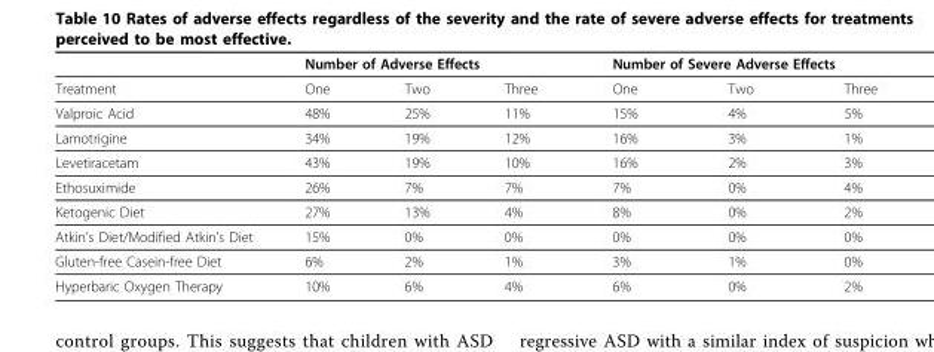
<table><thead><tr><td rowspan="2">Treatment</td><td colspan="3">Number of Adverse Effects</td><td colspan="3">Number of Severe Adverse Effects</td></tr><tr><td>One</td><td>Two</td><td>Three</td><td>One</td><td>Two</td><td>Three</td></tr></thead><tbody><tr><td>Valproic Acid</td><td>48%</td><td>25%</td><td>11%</td><td>15%</td><td>4%</td><td>5%</td></tr><tr><td>Lamotrigine</td><td>34%</td><td>19%</td><td>12%</td><td>16%</td><td>3%</td><td>1%</td></tr><tr><td>Levetiracetam</td><td>43%</td><td>19%</td><td>10%</td><td>16%</td><td>2%</td><td>3%</td></tr><tr><td>Ethosuximide</td><td>26%</td><td>7%</td><td>7%</td><td>7%</td><td>0%</td><td>4%</td></tr><tr><td>Ketogenic Diet</td><td>27%</td><td>13%</td><td>4%</td><td>8%</td><td>0%</td><td>2%</td></tr><tr><td>Atkin’s Diet/Modified Atkin’s Diet</td><td>15%</td><td>0%</td><td>0%</td><td>0%</td><td>0%</td><td>0%</td></tr><tr><td>Gluten-free Casein-free Diet</td><td>6%</td><td>2%</td><td>1%</td><td>3%</td><td>1%</td><td>0%</td></tr><tr><td>Hyperbaric Oxygen Therapy</td><td>10%</td><td>6%</td><td>4%</td><td>6%</td><td>0%</td><td>2%</td></tr></tbody></table>